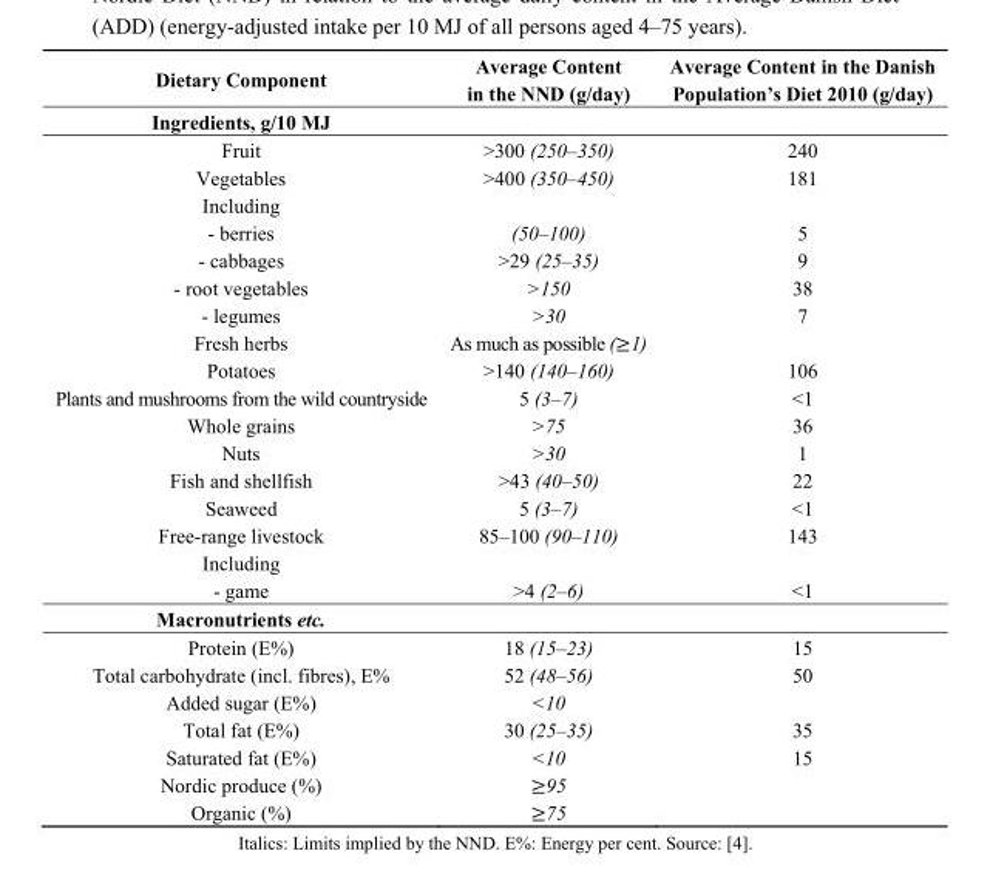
<table><thead><tr><td>Dietary Component</td><td>Average Content in the NND (g/day)</td><td>Average Content in the Danish Population’s Diet 2010 (g/day)</td></tr></thead><tbody><tr><td colspan="3">Ingredients, g/10 MJ</td></tr><tr><td>Fruit</td><td>&gt;300 (250–350)</td><td>240</td></tr><tr><td>Vegetables</td><td>&gt;400 (350–450)</td><td>181</td></tr><tr><td colspan="3">Including</td></tr><tr><td>- berries</td><td>(50–100)</td><td>5</td></tr><tr><td>- cabbages</td><td>&gt;29 (25–35)</td><td>9</td></tr><tr><td>- root vegetables</td><td>&gt;150</td><td>38</td></tr><tr><td>- legumes</td><td>&gt;30</td><td>7</td></tr><tr><td>Fresh herbs</td><td>As much as possible (≥1)</td><td></td></tr><tr><td>Potatoes</td><td>&gt;140 (140–160)</td><td>106</td></tr><tr><td>Plants and mushrooms from the wild countryside</td><td>5 (3–7)</td><td>&lt;1</td></tr><tr><td>Whole grains</td><td>&gt;75</td><td>36</td></tr><tr><td>Nuts</td><td>&gt;30</td><td>1</td></tr><tr><td>Fish and shellfish</td><td>&gt;43 (40–50)</td><td>22</td></tr><tr><td>Seaweed</td><td>5 (3–7)</td><td>&lt;1</td></tr><tr><td>Free-range livestock</td><td>85–100 (90–110)</td><td>143</td></tr><tr><td colspan="3">Including</td></tr><tr><td>- game</td><td>&gt;4 (2–6)</td><td>&lt;1</td></tr><tr><td colspan="3">Macronutrients etc.</td></tr><tr><td>Protein (E%)</td><td>18 (15–23)</td><td>15</td></tr><tr><td>Total carbohydrate (incl. fibres), E%</td><td>52 (48–56)</td><td>50</td></tr><tr><td>Added sugar (E%)</td><td>&lt;10</td><td></td></tr><tr><td>Total fat (E%)</td><td>30 (25–35)</td><td>35</td></tr><tr><td>Saturated fat (E%)</td><td>&lt;10</td><td>15</td></tr><tr><td>Nordic produce (%)</td><td>≥95</td><td></td></tr><tr><td>Organic (%)</td><td>≥75</td><td></td></tr></tbody></table>